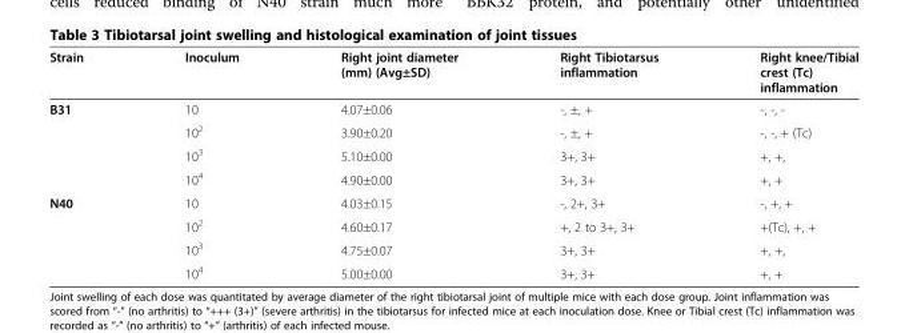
<table><thead><tr><td>Strain</td><td>Inoculum</td><td>Right joint diameter (mm) (Avg±SD)</td><td>Right Tibiotarsus inflammation</td><td>Right knee/Tibial crest (Tc) inflammation</td></tr></thead><tbody><tr><td rowspan="4">B31</td><td>10</td><td>4.07±0.06</td><td>-, ±, +</td><td>-, -, -</td></tr><tr><td>10<sup>2</sup></td><td>3.90±0.20</td><td>-, ±, +</td><td>-, -, + (Tc)</td></tr><tr><td>10<sup>3</sup></td><td>5.10±0.00</td><td>3+, 3+</td><td>+, +,</td></tr><tr><td>10<sup>4</sup></td><td>4.90±0.00</td><td>3+, 3+</td><td>+, +</td></tr><tr><td rowspan="4">N40</td><td>10</td><td>4.03±0.15</td><td>-, 2+, 3+</td><td>-, +, +</td></tr><tr><td>10<sup>2</sup></td><td>4.60±0.17</td><td>+, 2 to 3+, 3+</td><td>+(Tc), +, +</td></tr><tr><td>10<sup>3</sup></td><td>4.75±0.07</td><td>3+, 3+</td><td>+, +,</td></tr><tr><td>10<sup>4</sup></td><td>5.00±0.00</td><td>3+, 3+</td><td>+, +</td></tr></tbody></table>